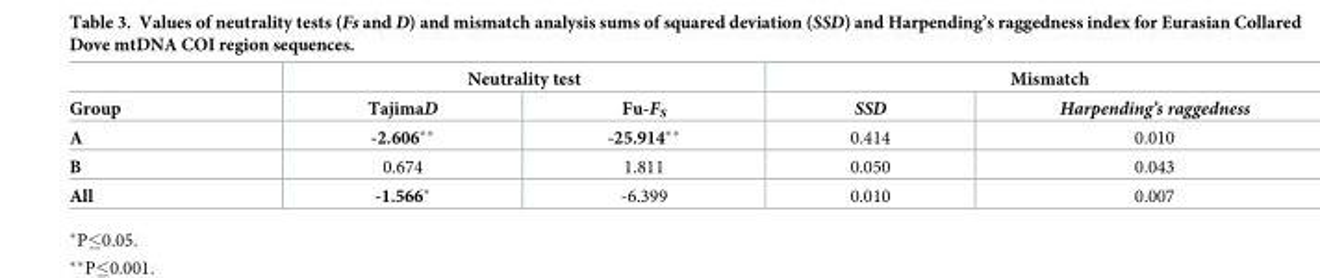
<table><thead><tr><td rowspan="2">Group</td><td colspan="2">Neutrality test</td><td colspan="2">Mismatch</td></tr><tr><td>TajimaD</td><td>Fu-FS</td><td>SSD</td><td>Harpending’s raggedness</td></tr></thead><tbody><tr><td>A</td><td>-2.606**</td><td>-25.914**</td><td>0.414</td><td>0.010</td></tr><tr><td>B</td><td>0.674</td><td>1.811</td><td>0.050</td><td>0.043</td></tr><tr><td>All</td><td>-1.566*</td><td>-6.399</td><td>0.010</td><td>0.007</td></tr></tbody></table>